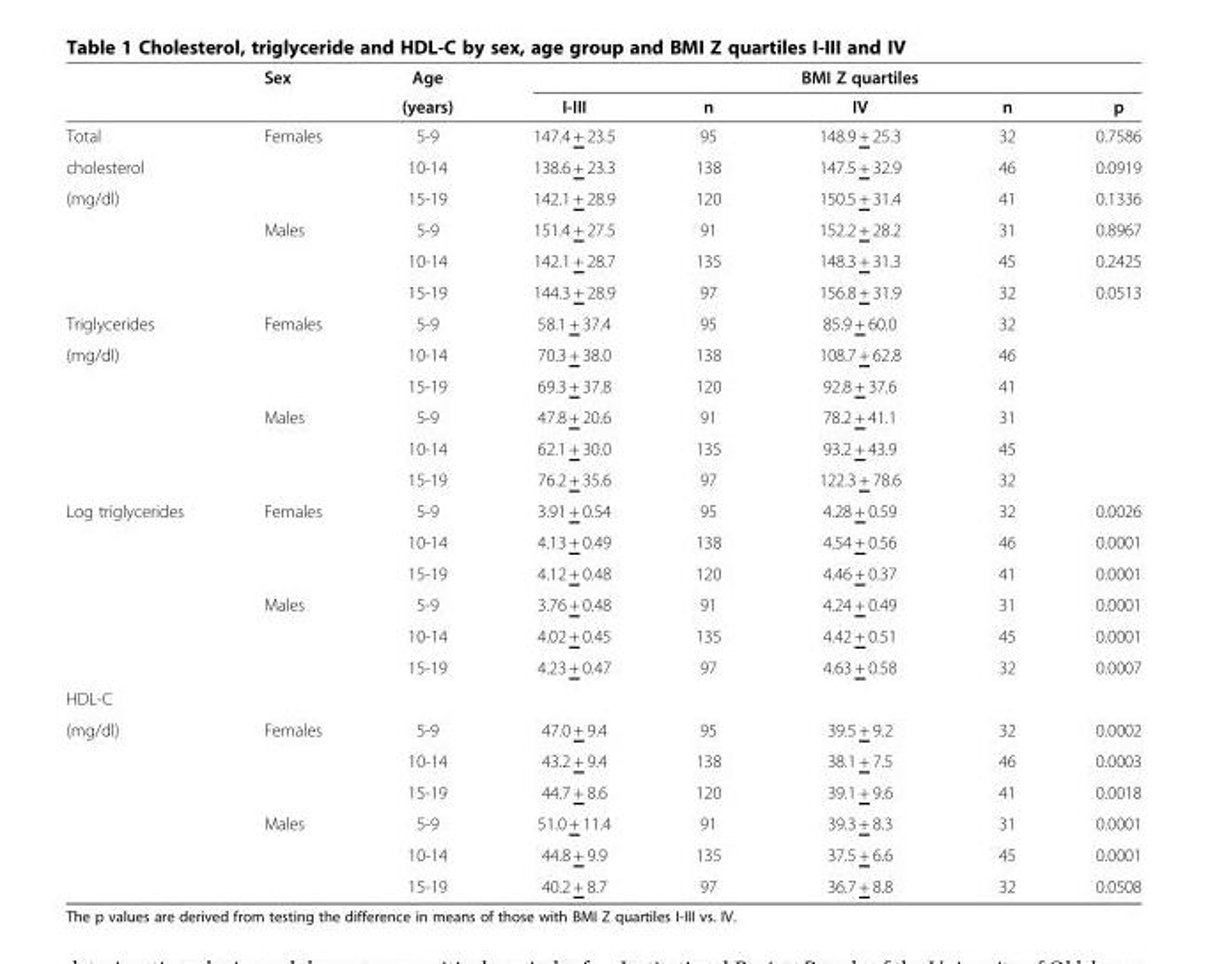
<table><thead><tr><td rowspan="2"></td><td rowspan="2">Sex</td><td rowspan="2">Age (years)</td><td colspan="5">BMI Z quartiles</td></tr><tr><td>I-III</td><td>n</td><td>IV</td><td>n</td><td>p</td></tr></thead><tbody><tr><td>Total</td><td>Females</td><td>5-9</td><td>147.4 + 23.5</td><td>95</td><td>148.9 + 25.3</td><td>32</td><td>0.7586</td></tr><tr><td>cholesterol</td><td></td><td>10-14</td><td>138.6 + 23.3</td><td>138</td><td>147.5 + 32.9</td><td>46</td><td>0.0919</td></tr><tr><td rowspan="4">(mg/dl)</td><td></td><td>15-19</td><td>142.1 + 28.9</td><td>120</td><td>150.5 + 31.4</td><td>41</td><td>0.1336</td></tr><tr><td>Males</td><td>5-9</td><td>151.4 + 27.5</td><td>91</td><td>152.2 + 28.2</td><td>31</td><td>0.8967</td></tr><tr><td></td><td>10-14</td><td>142.1 + 28.7</td><td>135</td><td>148.3 + 31.3</td><td>45</td><td>0.2425</td></tr><tr><td></td><td>15-19</td><td>144.3 + 28.9</td><td>97</td><td>156.8 + 31.9</td><td>32</td><td>0.0513</td></tr><tr><td>Triglycerides</td><td>Females</td><td>5-9</td><td>58.1 + 37.4</td><td>95</td><td>85.9 + 60.0</td><td>32</td><td></td></tr><tr><td rowspan="5">(mg/dl)</td><td></td><td>10-14</td><td>70.3 + 38.0</td><td>138</td><td>108.7 + 62.8</td><td>46</td><td></td></tr><tr><td></td><td>15-19</td><td>69.3 + 37.8</td><td>120</td><td>92.8 + 37.6</td><td>41</td><td></td></tr><tr><td>Males</td><td>5-9</td><td>47.8 + 20.6</td><td>91</td><td>78.2 + 41.1</td><td>31</td><td></td></tr><tr><td></td><td>10-14</td><td>62.1 + 30.0</td><td>135</td><td>93.2 + 43.9</td><td>45</td><td></td></tr><tr><td></td><td>15-19</td><td>76.2 + 35.6</td><td>97</td><td>122.3 + 78.6</td><td>32</td><td></td></tr><tr><td rowspan="6">Log triglycerides</td><td>Females</td><td>5-9</td><td>3.91 + 0.54</td><td>95</td><td>4.28 + 0.59</td><td>32</td><td>0.0026</td></tr><tr><td></td><td>10-14</td><td>4.13 + 0.49</td><td>138</td><td>4.54 + 0.56</td><td>46</td><td>0.0001</td></tr><tr><td></td><td>15-19</td><td>4.12 + 0.48</td><td>120</td><td>4.46 + 0.37</td><td>41</td><td>0.0001</td></tr><tr><td>Males</td><td>5-9</td><td>3.76 + 0.48</td><td>91</td><td>4.24 + 0.49</td><td>31</td><td>0.0001</td></tr><tr><td></td><td>10-14</td><td>4.02 + 0.45</td><td>135</td><td>4.42 + 0.51</td><td>45</td><td>0.0001</td></tr><tr><td></td><td>15-19</td><td>4.23 + 0.47</td><td>97</td><td>4.63 + 0.58</td><td>32</td><td>0.0007</td></tr><tr><td colspan="8">HDL-C</td></tr><tr><td rowspan="6">(mg/dl)</td><td>Females</td><td>5-9</td><td>47.0 + 9.4</td><td>95</td><td>39.5 + 9.2</td><td>32</td><td>0.0002</td></tr><tr><td></td><td>10-14</td><td>43.2 + 9.4</td><td>138</td><td>38.1 + 7.5</td><td>46</td><td>0.0003</td></tr><tr><td></td><td>15-19</td><td>44.7 + 8.6</td><td>120</td><td>39.1 + 9.6</td><td>41</td><td>0.0018</td></tr><tr><td>Males</td><td>5-9</td><td>51.0 + 11.4</td><td>91</td><td>39.3 + 8.3</td><td>31</td><td>0.0001</td></tr><tr><td></td><td>10-14</td><td>44.8 + 9.9</td><td>135</td><td>37.5 + 6.6</td><td>45</td><td>0.0001</td></tr><tr><td></td><td>15-19</td><td>40.2 + 8.7</td><td>97</td><td>36.7 + 8.8</td><td>32</td><td>0.0508</td></tr></tbody></table>